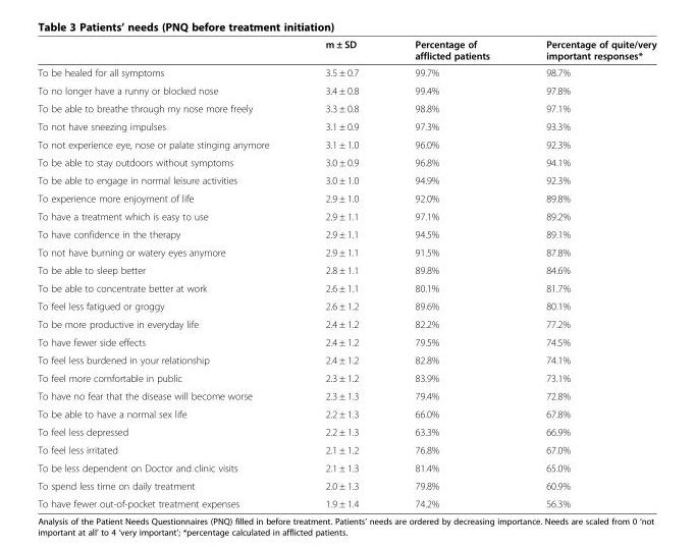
<table><thead><tr><td></td><td>m ± SD</td><td>Percentage of afflicted patients</td><td>Percentage of quite/very important responses*</td></tr></thead><tbody><tr><td>To be healed for all symptoms</td><td>3.5 ± 0.7</td><td>99.7%</td><td>98.7%</td></tr><tr><td>To no longer have a runny or blocked nose</td><td>3.4 ± 0.8</td><td>99.4%</td><td>97.8%</td></tr><tr><td>To be able to breathe through my nose more freely</td><td>3.3 ± 0.8</td><td>98.8%</td><td>97.1%</td></tr><tr><td>To not have sneezing impulses</td><td>3.1 ± 0.9</td><td>97.3%</td><td>93.3%</td></tr><tr><td>To not experience eye, nose or palate stinging anymore</td><td>3.1 ± 1.0</td><td>96.0%</td><td>92.3%</td></tr><tr><td>To be able to stay outdoors without symptoms</td><td>3.0 ± 0.9</td><td>96.8%</td><td>94.1%</td></tr><tr><td>To be able to engage in normal leisure activities</td><td>3.0 ± 1.0</td><td>94.9%</td><td>92.3%</td></tr><tr><td>To experience more enjoyment of life</td><td>2.9 ± 1.0</td><td>92.0%</td><td>89.8%</td></tr><tr><td>To have a treatment which is easy to use</td><td>2.9 ± 1.1</td><td>97.1%</td><td>89.2%</td></tr><tr><td>To have confidence in the therapy</td><td>2.9 ± 1.1</td><td>94.5%</td><td>89.1%</td></tr><tr><td>To not have burning or watery eyes anymore</td><td>2.9 ± 1.1</td><td>91.5%</td><td>87.8%</td></tr><tr><td>To be able to sleep better</td><td>2.8 ± 1.1</td><td>89.8%</td><td>84.6%</td></tr><tr><td>To be able to concentrate better at work</td><td>2.6 ± 1.1</td><td>80.1%</td><td>81.7%</td></tr><tr><td>To feel less fatigued or groggy</td><td>2.6 ± 1.2</td><td>89.6%</td><td>80.1%</td></tr><tr><td>To be more productive in everyday life</td><td>2.4 ± 1.2</td><td>82.2%</td><td>77.2%</td></tr><tr><td>To have fewer side effects</td><td>2.4 ± 1.2</td><td>79.5%</td><td>74.5%</td></tr><tr><td>To feel less burdened in your relationship</td><td>2.4 ± 1.2</td><td>82.8%</td><td>74.1%</td></tr><tr><td>To feel more comfortable in public</td><td>2.3 ± 1.2</td><td>83.9%</td><td>73.1%</td></tr><tr><td>To have no fear that the disease will become worse</td><td>2.3 ± 1.3</td><td>79.4%</td><td>72.8%</td></tr><tr><td>To be able to have a normal sex life</td><td>2.2 ± 1.3</td><td>66.0%</td><td>67.8%</td></tr><tr><td>To feel less depressed</td><td>2.2 ± 1.3</td><td>63.3%</td><td>66.9%</td></tr><tr><td>To feel less irritated</td><td>2.1 ± 1.2</td><td>76.8%</td><td>67.0%</td></tr><tr><td>To be less dependent on Doctor and clinic visits</td><td>2.1 ± 1.3</td><td>81.4%</td><td>65.0%</td></tr><tr><td>To spend less time on daily treatment</td><td>2.0 ± 1.3</td><td>79.8%</td><td>60.9%</td></tr><tr><td>To have fewer out-of-pocket treatment expenses</td><td>1.9 ± 1.4</td><td>74.2%</td><td>56.3%</td></tr></tbody></table>